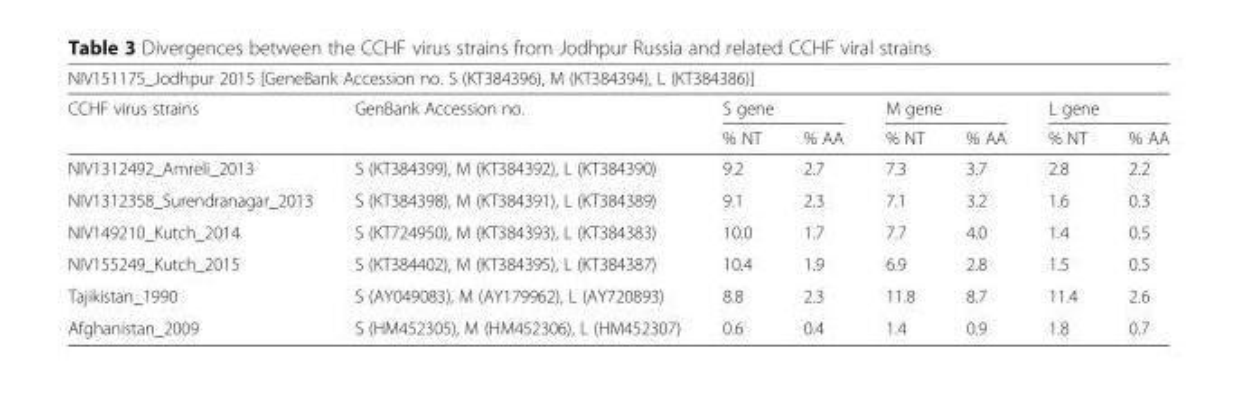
<table><thead><tr><td colspan="8">NIV151175_Jodhpur 2015 [GeneBank Accession no. S (KT384396), M (KT384394), L (KT384386)]</td></tr><tr><td rowspan="2">CCHF virus strains</td><td rowspan="2">GenBank Accession no.</td><td colspan="2">S gene</td><td colspan="2">M gene</td><td colspan="2">L gene</td></tr><tr><td>% NT</td><td>% AA</td><td>% NT</td><td>% AA</td><td>% NT</td><td>% AA</td></tr></thead><tbody><tr><td>NIV1312492_Amreli_2013</td><td>S (KT384399), M (KT384392), L (KT384390)</td><td>9.2</td><td>2.7</td><td>7.3</td><td>3.7</td><td>2.8</td><td>2.2</td></tr><tr><td>NIV1312358_Surendranagar_2013</td><td>S (KT384398), M (KT384391), L (KT384389)</td><td>9.1</td><td>2.3</td><td>7.1</td><td>3.2</td><td>1.6</td><td>0.3</td></tr><tr><td>NIV149210_Kutch_2014</td><td>S (KT724950), M (KT384393), L (KT384383)</td><td>10.0</td><td>1.7</td><td>7.7</td><td>4.0</td><td>1.4</td><td>0.5</td></tr><tr><td>NIV155249_Kutch_2015</td><td>S (KT384402), M (KT384395), L (KT384387)</td><td>10.4</td><td>1.9</td><td>6.9</td><td>2.8</td><td>1.5</td><td>0.5</td></tr><tr><td>Tajikistan_1990</td><td>S (AY049083), M (AY179962), L (AY720893)</td><td>8.8</td><td>2.3</td><td>11.8</td><td>8.7</td><td>11.4</td><td>2.6</td></tr><tr><td>Afghanistan_2009</td><td>S (HM452305), M (HM452306), L (HM452307)</td><td>0.6</td><td>0.4</td><td>1.4</td><td>0.9</td><td>1.8</td><td>0.7</td></tr></tbody></table>